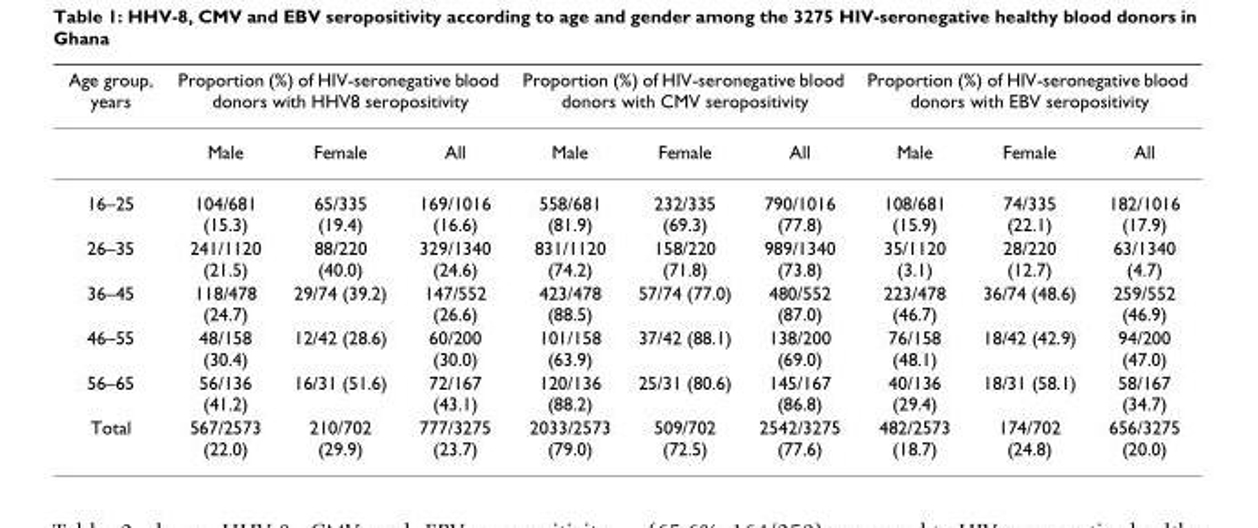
<table><thead><tr><td rowspan="2">Age group, years</td><td colspan="3">Proportion (%) of HIV-seronegative blood donors with HHV8 seropositivity</td><td colspan="3">Proportion (%) of HIV-seronegative blood donors with CMV seropositivity</td><td colspan="3">Proportion (%) of HIV-seronegative blood donors with EBV seropositivity</td></tr><tr><td>Male</td><td>Female</td><td>All</td><td>Male</td><td>Female</td><td>All</td><td>Male</td><td>Female</td><td>All</td></tr></thead><tbody><tr><td>16–25</td><td>104/681 (15.3)</td><td>65/335 (19.4)</td><td>169/1016 (16.6)</td><td>558/681 (81.9)</td><td>232/335 (69.3)</td><td>790/1016 (77.8)</td><td>108/681 (15.9)</td><td>74/335 (22.1)</td><td>182/1016 (17.9)</td></tr><tr><td>26–35</td><td>241/1120 (21.5)</td><td>88/220 (40.0)</td><td>329/1340 (24.6)</td><td>831/1120 (74.2)</td><td>158/220 (71.8)</td><td>989/1340 (73.8)</td><td>35/1120 (3.1)</td><td>28/220 (12.7)</td><td>63/1340 (4.7)</td></tr><tr><td>36–45</td><td>118/478 (24.7)</td><td>29/74 (39.2)</td><td>147/552 (26.6)</td><td>423/478 (88.5)</td><td>57/74 (77.0)</td><td>480/552 (87.0)</td><td>223/478 (46.7)</td><td>36/74 (48.6)</td><td>259/552 (46.9)</td></tr><tr><td>46–55</td><td>48/158 (30.4)</td><td>12/42 (28.6)</td><td>60/200 (30.0)</td><td>101/158 (63.9)</td><td>37/42 (88.1)</td><td>138/200 (69.0)</td><td>76/158 (48.1)</td><td>18/42 (42.9)</td><td>94/200 (47.0)</td></tr><tr><td>56–65</td><td>56/136 (41.2)</td><td>16/31 (51.6)</td><td>72/167 (43.1)</td><td>120/136 (88.2)</td><td>25/31 (80.6)</td><td>145/167 (86.8)</td><td>40/136 (29.4)</td><td>18/31 (58.1)</td><td>58/167 (34.7)</td></tr><tr><td>Total</td><td>567/2573 (22.0)</td><td>210/702 (29.9)</td><td>777/3275 (23.7)</td><td>2033/2573 (79.0)</td><td>509/702 (72.5)</td><td>2542/3275 (77.6)</td><td>482/2573 (18.7)</td><td>174/702 (24.8)</td><td>656/3275 (20.0)</td></tr></tbody></table>